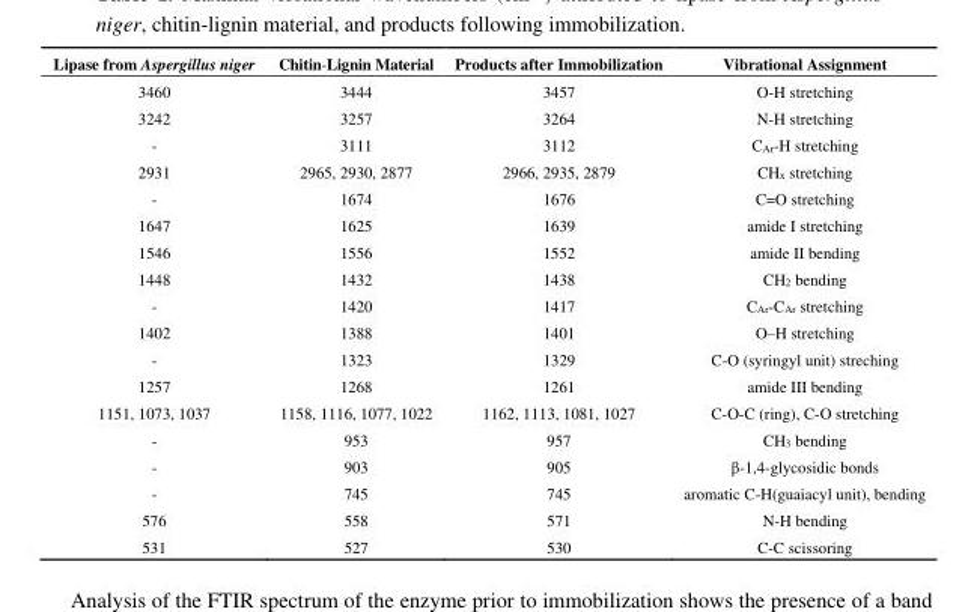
<table><thead><tr><td>Lipase from Aspergillus niger</td><td>Chitin-Lignin Material</td><td>Products after Immobilization</td><td>Vibrational Assignment</td></tr></thead><tbody><tr><td>3460</td><td>3444</td><td>3457</td><td>O-H stretching</td></tr><tr><td>3242</td><td>3257</td><td>3264</td><td>N-H stretching</td></tr><tr><td>-</td><td>3111</td><td>3112</td><td>C<sub>Ar</sub>-H stretching</td></tr><tr><td>2931</td><td>2965, 2930, 2877</td><td>2966, 2935, 2879</td><td>CH<sub>x</sub> stretching</td></tr><tr><td>-</td><td>1674</td><td>1676</td><td>C=O stretching</td></tr><tr><td>1647</td><td>1625</td><td>1639</td><td>amide I stretching</td></tr><tr><td>1546</td><td>1556</td><td>1552</td><td>amide II bending</td></tr><tr><td>1448</td><td>1432</td><td>1438</td><td>CH<sub>2</sub> bending</td></tr><tr><td>-</td><td>1420</td><td>1417</td><td>C<sub>Ar</sub>-C<sub>Ar</sub> stretching</td></tr><tr><td>1402</td><td>1388</td><td>1401</td><td>O–H stretching</td></tr><tr><td>-</td><td>1323</td><td>1329</td><td>C-O (syringyl unit) streching</td></tr><tr><td>1257</td><td>1268</td><td>1261</td><td>amide III bending</td></tr><tr><td>1151, 1073, 1037</td><td>1158, 1116, 1077, 1022</td><td>1162, 1113, 1081, 1027</td><td>C-O-C (ring), C-O stretching</td></tr><tr><td>-</td><td>953</td><td>957</td><td>CH<sub>3</sub> bending</td></tr><tr><td>-</td><td>903</td><td>905</td><td>β-1,4-glycosidic bonds</td></tr><tr><td>-</td><td>745</td><td>745</td><td>aromatic C-H(guaiacyl unit), bending</td></tr><tr><td>576</td><td>558</td><td>571</td><td>N-H bending</td></tr><tr><td>531</td><td>527</td><td>530</td><td>C-C scissoring</td></tr></tbody></table>